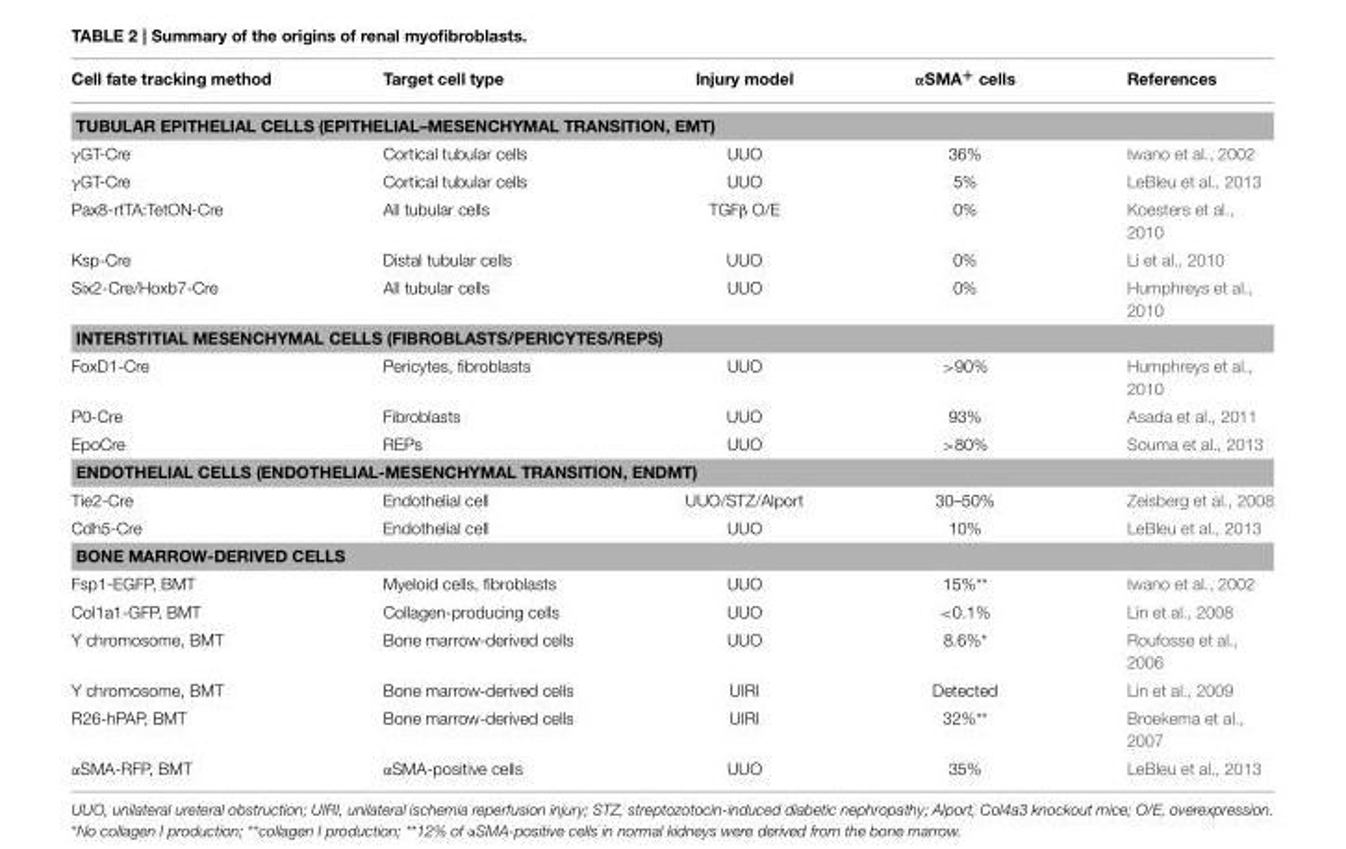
<table><thead><tr><td>Cell fate tracking method</td><td>Target cell type</td><td>Injury model</td><td>αSMA<sup>+</sup> cells</td><td>References</td></tr></thead><tbody><tr><td colspan="5">TUBULAR EPITHELIAL CELLS (EPITHELIAL–MESENCHYMAL TRANSITION, EMT)</td></tr><tr><td>γGT-Cre</td><td>Cortical tubular cells</td><td>UUO</td><td>36%</td><td>Iwano et al., 2002</td></tr><tr><td>γGT-Cre</td><td>Cortical tubular cells</td><td>UUO</td><td>5%</td><td>LeBleu et al., 2013</td></tr><tr><td>Pax8-rtTA:TetON-Cre</td><td>All tubular cells</td><td>TGFβ O/E</td><td>0%</td><td>Koesters et al., 2010</td></tr><tr><td>Ksp-Cre</td><td>Distal tubular cells</td><td>UUO</td><td>0%</td><td>Li et al., 2010</td></tr><tr><td>Six2-Cre/Hoxb7-Cre</td><td>All tubular cells</td><td>UUO</td><td>0%</td><td>Humphreys et al., 2010</td></tr><tr><td colspan="5">INTERSTITIAL MESENCHYMAL CELLS (FIBROBLASTS/PERICYTES/REPS)</td></tr><tr><td>FoxD1-Cre</td><td>Pericytes, fibroblasts</td><td>UUO</td><td>&gt;90%</td><td>Humphreys et al., 2010</td></tr><tr><td>P0-Cre</td><td>Fibroblasts</td><td>UUO</td><td>93%</td><td>Asada et al., 2011</td></tr><tr><td>EpoCre</td><td>REPs</td><td>UUO</td><td>&gt;80%</td><td>Souma et al., 2013</td></tr><tr><td colspan="5">ENDOTHELIAL CELLS (ENDOTHELIAL-MESENCHYMAL TRANSITION, ENDMT)</td></tr><tr><td>Tie2-Cre</td><td>Endothelial cell</td><td>UUO/STZ/Alport</td><td>30–50%</td><td>Zeisberg et al., 2008</td></tr><tr><td>Cdh5-Cre</td><td>Endothelial cell</td><td>UUO</td><td>10%</td><td>LeBleu et al., 2013</td></tr><tr><td colspan="5">BONE MARROW-DERIVED CELLS</td></tr><tr><td>Fsp1-EGFP, BMT</td><td>Myeloid cells, fibroblasts</td><td>UUO</td><td>15%**</td><td>Iwano et al., 2002</td></tr><tr><td>Col1a1-GFP, BMT</td><td>Collagen-producing cells</td><td>UUO</td><td>&lt;0.1%</td><td>Lin et al., 2008</td></tr><tr><td>Y chromosome, BMT</td><td>Bone marrow-derived cells</td><td>UUO</td><td>8.6%*</td><td>Roufosse et al., 2006</td></tr><tr><td>Y chromosome, BMT</td><td>Bone marrow-derived cells</td><td>UIRI</td><td>Detected</td><td>Lin et al., 2009</td></tr><tr><td>R26-hPAP, BMT</td><td>Bone marrow-derived cells</td><td>UIRI</td><td>32%**</td><td>Broekema et al., 2007</td></tr><tr><td>αSMA-RFP, BMT</td><td>αSMA-positive cells</td><td>UUO</td><td>35%</td><td>LeBleu et al., 2013</td></tr></tbody></table>